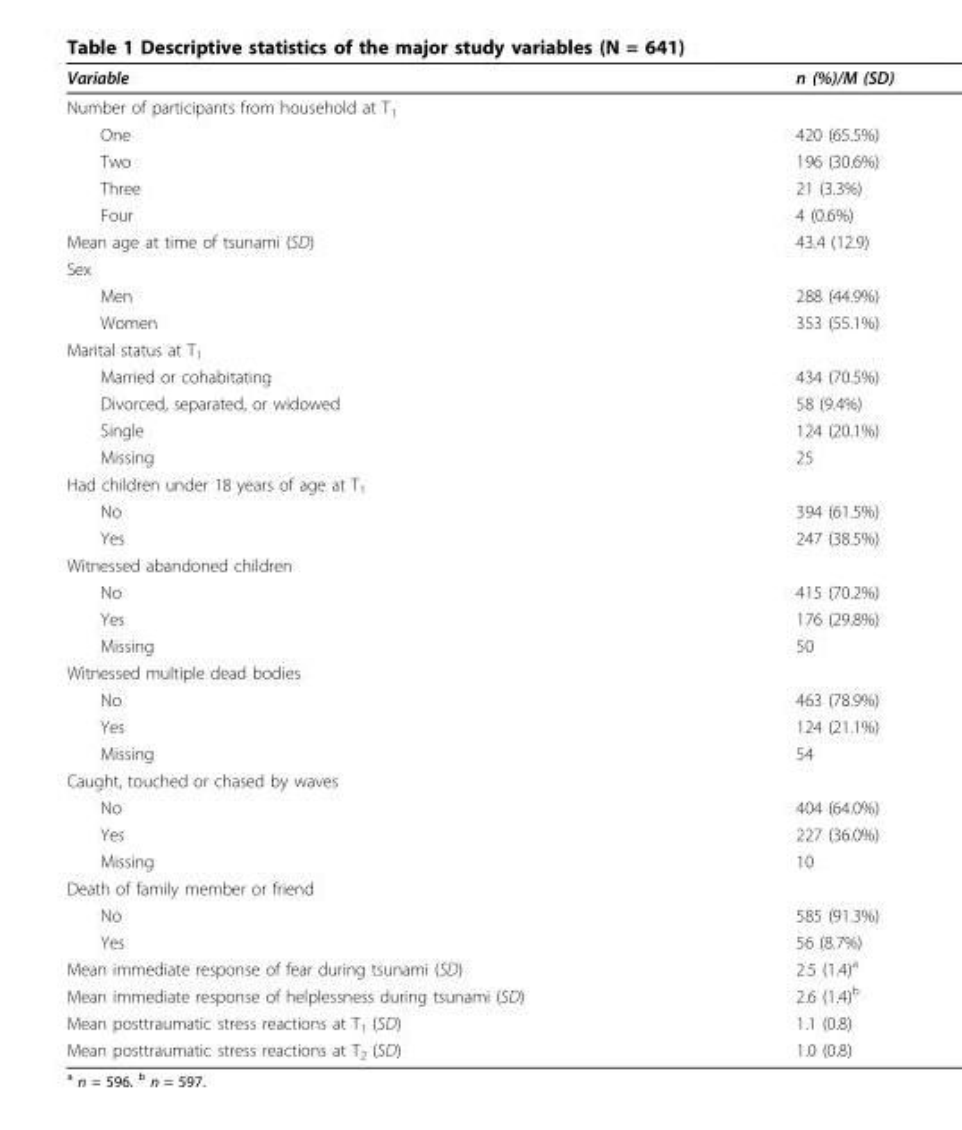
<table><thead><tr><td>Variable</td><td>n (%)/M (SD)</td></tr></thead><tbody><tr><td colspan="2">Number of participants from household at T<sub>1</sub></td></tr><tr><td>One</td><td>420 (65.5%)</td></tr><tr><td>Two</td><td>196 (30.6%)</td></tr><tr><td>Three</td><td>21 (3.3%)</td></tr><tr><td>Four</td><td>4 (0.6%)</td></tr><tr><td>Mean age at time of tsunami (SD)</td><td>43.4 (12.9)</td></tr><tr><td colspan="2">Sex</td></tr><tr><td>Men</td><td>288 (44.9%)</td></tr><tr><td>Women</td><td>353 (55.1%)</td></tr><tr><td colspan="2">Marital status at T<sub>1</sub></td></tr><tr><td>Married or cohabitating</td><td>434 (70.5%)</td></tr><tr><td>Divorced, separated, or widowed</td><td>58 (9.4%)</td></tr><tr><td>Single</td><td>124 (20.1%)</td></tr><tr><td>Missing</td><td>25</td></tr><tr><td colspan="2">Had children under 18 years of age at T<sub>1</sub></td></tr><tr><td>No</td><td>394 (61.5%)</td></tr><tr><td>Yes</td><td>247 (38.5%)</td></tr><tr><td colspan="2">Witnessed abandoned children</td></tr><tr><td>No</td><td>415 (70.2%)</td></tr><tr><td>Yes</td><td>176 (29.8%)</td></tr><tr><td>Missing</td><td>50</td></tr><tr><td colspan="2">Witnessed multiple dead bodies</td></tr><tr><td>No</td><td>463 (78.9%)</td></tr><tr><td>Yes</td><td>124 (21.1%)</td></tr><tr><td>Missing</td><td>54</td></tr><tr><td colspan="2">Caught, touched or chased by waves</td></tr><tr><td>No</td><td>404 (64.0%)</td></tr><tr><td>Yes</td><td>227 (36.0%)</td></tr><tr><td>Missing</td><td>10</td></tr><tr><td colspan="2">Death of family member or friend</td></tr><tr><td>No</td><td>585 (91.3%)</td></tr><tr><td>Yes</td><td>56 (8.7%)</td></tr><tr><td>Mean immediate response of fear during tsunami (SD)</td><td>2.5 (1.4)<sup>a</sup></td></tr><tr><td>Mean immediate response of helplessness during tsunami (SD)</td><td>2.6 (1.4)<sup>b</sup></td></tr><tr><td>Mean posttraumatic stress reactions at T<sub>1</sub> (SD)</td><td>1.1 (0.8)</td></tr><tr><td>Mean posttraumatic stress reactions at T<sub>2</sub> (SD)</td><td>1.0 (0.8)</td></tr></tbody></table>